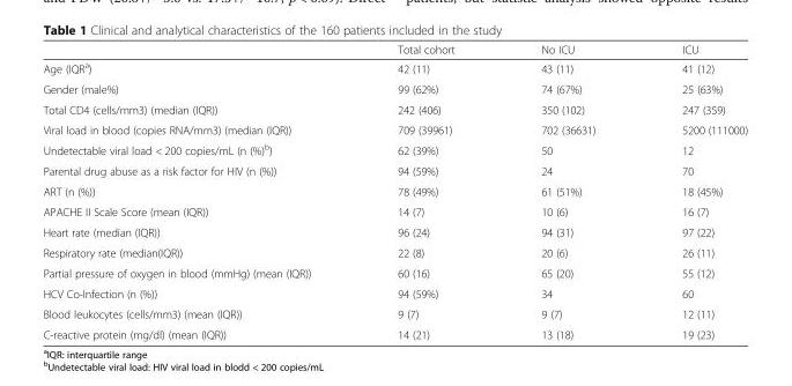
<table><thead><tr><td></td><td>Total cohort</td><td>No ICU</td><td>ICU</td></tr></thead><tbody><tr><td>Age (IQR<sup>a</sup>)</td><td>42 (11)</td><td>43 (11)</td><td>41 (12)</td></tr><tr><td>Gender (male%)</td><td>99 (62%)</td><td>74 (67%)</td><td>25 (63%)</td></tr><tr><td>Total CD4 (cells/mm3) (median (IQR))</td><td>242 (406)</td><td>350 (102)</td><td>247 (359)</td></tr><tr><td>Viral load in blood (copies RNA/mm3) (median (IQR))</td><td>709 (39961)</td><td>702 (36631)</td><td>5200 (111000)</td></tr><tr><td>Undetectable viral load &lt; 200 copies/mL (n (%)<sup>b</sup>)</td><td>62 (39%)</td><td>50</td><td>12</td></tr><tr><td>Parental drug abuse as a risk factor for HIV (n (%))</td><td>94 (59%)</td><td>24</td><td>70</td></tr><tr><td>ART (n (%))</td><td>78 (49%)</td><td>61 (51%)</td><td>18 (45%)</td></tr><tr><td>APACHE II Scale Score (mean (IQR))</td><td>14 (7)</td><td>10 (6)</td><td>16 (7)</td></tr><tr><td>Heart rate (median (IQR))</td><td>96 (24)</td><td>94 (31)</td><td>97 (22)</td></tr><tr><td>Respiratory rate (median(IQR))</td><td>22 (8)</td><td>20 (6)</td><td>26 (11)</td></tr><tr><td>Partial pressure of oxygen in blood (mmHg) (mean (IQR))</td><td>60 (16)</td><td>65 (20)</td><td>55 (12)</td></tr><tr><td>HCV Co-Infection (n (%))</td><td>94 (59%)</td><td>34</td><td>60</td></tr><tr><td>Blood leukocytes (cells/mm3) (mean (IQR))</td><td>9 (7)</td><td>9 (7)</td><td>12 (11)</td></tr><tr><td>C-reactive protein (mg/dl) (mean (IQR))</td><td>14 (21)</td><td>13 (18)</td><td>19 (23)</td></tr></tbody></table>